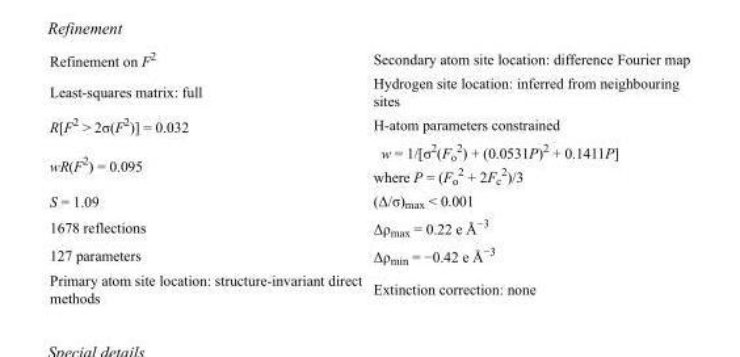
<table><tbody><tr><td>Refinement on F<sup>2</sup></td><td>Secondary atom site location: difference Fourier map</td></tr><tr><td>Least-squares matrix: full</td><td>Hydrogen site location: inferred from neighbouring sites</td></tr><tr><td>R[F<sup>2</sup> &gt; 2σ(F<sup>2</sup>)] = 0.032</td><td>H-atom parameters constrained</td></tr><tr><td>wR(F<sup>2</sup>) = 0.095</td><td>w = 1/[σ<sup>2</sup>(F<sub>o</sub> <sup>2</sup>) + (0.0531P)<sup>2</sup> + 0.1411P] where P = (F<sub>o</sub> <sup>2</sup> + 2F<sub>c</sub> <sup>2</sup>)/3</td></tr><tr><td>S = 1.09</td><td>(Δ/σ)<sub>max</sub> &lt; 0.001</td></tr><tr><td>1678 reflections</td><td>Δρ<sub>max</sub> = 0.22 e Å<sup>−3</sup></td></tr><tr><td>127 parameters</td><td>Δρ<sub>min</sub> = −0.42 e Å<sup>−3</sup></td></tr><tr><td>Primary atom site location: structure-invariant direct methods</td><td>Extinction correction: none</td></tr></tbody></table>